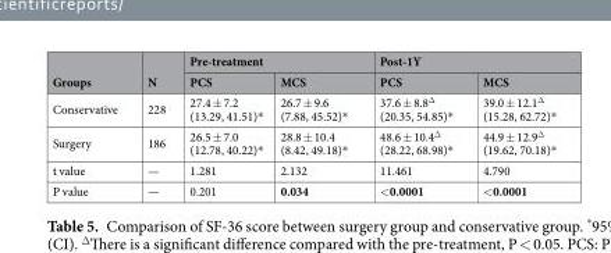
<table><thead><tr><td rowspan="2">Groups</td><td rowspan="2">N</td><td colspan="2">Pre-treatment</td><td colspan="2">Post-1Y</td></tr><tr><td>PCS</td><td>MCS</td><td>PCS</td><td>MCS</td></tr></thead><tbody><tr><td>Conservative</td><td>228</td><td>27.4 ± 7.2 (13.29, 41.51)*</td><td>26.7 ± 9.6 (7.88, 45.52)*</td><td>37.6 ± 8.8<sup>Δ</sup> (20.35, 54.85)*</td><td>39.0 ± 12.1<sup>Δ</sup> (15.28, 62.72)*</td></tr><tr><td>Surgery</td><td>186</td><td>26.5 ± 7.0 (12.78, 40.22)*</td><td>28.8 ± 10.4 (8.42, 49.18)*</td><td>48.6 ± 10.4<sup>Δ</sup> (28.22, 68.98)*</td><td>44.9 ± 12.9<sup>Δ</sup> (19.62, 70.18)*</td></tr><tr><td>t value</td><td>—</td><td>1.281</td><td>2.132</td><td>11.461</td><td>4.790</td></tr><tr><td>P value</td><td>—</td><td>0.201</td><td>0.034</td><td>&lt;0.0001</td><td>&lt;0.0001</td></tr></tbody></table>